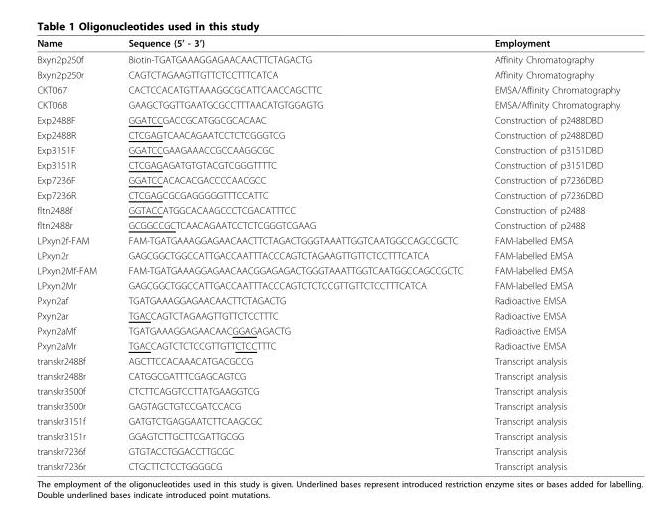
<table><thead><tr><td>Name</td><td>Sequence (5’ - 3’)</td><td>Employment</td></tr></thead><tbody><tr><td>Bxyn2p250f</td><td>Biotin-TGATGAAAGGAGAACAACTTCTAGACTG</td><td>Affinity Chromatography</td></tr><tr><td>Bxyn2p250r</td><td>CAGTCTAGAAGTTGTTCTCCTTTCATCA</td><td>Affinity Chromatography</td></tr><tr><td>CKT067</td><td>CACTCCACATGTTAAAGGCGCATTCAACCAGCTTC</td><td>EMSA/Affinity Chromatography</td></tr><tr><td>CKT068</td><td>GAAGCTGGTTGAATGCGCCTTTAACATGTGGAGTG</td><td>EMSA/Affinity Chromatography</td></tr><tr><td>Exp2488F</td><td>GGATCCGACCGCATGGCGCACAAC</td><td>Construction of p2488DBD</td></tr><tr><td>Exp2488R</td><td>CTCGAGTCAACAGAATCCTCTCGGGTCG</td><td>Construction of p2488DBD</td></tr><tr><td>Exp3151F</td><td>GGATCCGAAGAAACCGCCAAGGCGC</td><td>Construction of p3151DBD</td></tr><tr><td>Exp3151R</td><td>CTCGAGAGATGTGTACGTCGGGTTTTC</td><td>Construction of p3151DBD</td></tr><tr><td>Exp7236F</td><td>GGATCCACACACGACCCCAACGCC</td><td>Construction of p7236DBD</td></tr><tr><td>Exp7236R</td><td>CTCGAGCGCGAGGGGGTTTCCATTC</td><td>Construction of p7236DBD</td></tr><tr><td>fltn2488f</td><td>GGTACCATGGCACAAGCCCTCGACATTTCC</td><td>Construction of p2488</td></tr><tr><td>fltn2488r</td><td>GCGGCCGCTCAACAGAATCCTCTCGGGTCGAAG</td><td>Construction of p2488</td></tr><tr><td>LPxyn2f-FAM</td><td>FAM-TGATGAAAGGAGAACAACTTCTAGACTGGGTAAATTGGTCAATGGCCAGCCGCTC</td><td>FAM-labelled EMSA</td></tr><tr><td>LPxyn2r</td><td>GAGCGGCTGGCCATTGACCAATTTACCCAGTCTAGAAGTTGTTCTCCTTTCATCA</td><td>FAM-labelled EMSA</td></tr><tr><td>LPxyn2Mf-FAM</td><td>FAM-TGATGAAAGGAGAACAACGGAGAGACTGGGTAAATTGGTCAATGGCCAGCCGCTC</td><td>FAM-labelled EMSA</td></tr><tr><td>LPxyn2Mr</td><td>GAGCGGCTGGCCATTGACCAATTTACCCAGTCTCTCCGTTGTTCTCCTTTCATCA</td><td>FAM-labelled EMSA</td></tr><tr><td>Pxyn2af</td><td>TGATGAAAGGAGAACAACTTCTAGACTG</td><td>Radioactive EMSA</td></tr><tr><td>Pxyn2ar</td><td>TGACCAGTCTAGAAGTTGTTCTCCTTTC</td><td>Radioactive EMSA</td></tr><tr><td>Pxyn2aMf</td><td>TGATGAAAGGAGAACAACGGAGAGACTG</td><td>Radioactive EMSA</td></tr><tr><td>Pxyn2aMr</td><td>TGACCAGTCTCTCCGTTGTTCTCCTTTC</td><td>Radioactive EMSA</td></tr><tr><td>transkr2488f</td><td>AGCTTCCACAAACATGACGCCG</td><td>Transcript analysis</td></tr><tr><td>transkr2488r</td><td>CATGGCGATTTCGAGCAGTCG</td><td>Transcript analysis</td></tr><tr><td>transkr3500f</td><td>CTCTTCAGGTCCTTATGAAGGTCG</td><td>Transcript analysis</td></tr><tr><td>transkr3500r</td><td>GAGTAGCTGTCCGATCCACG</td><td>Transcript analysis</td></tr><tr><td>transkr3151f</td><td>GATGTCTGAGGAATCTTCAAGCGC</td><td>Transcript analysis</td></tr><tr><td>transkr3151r</td><td>GGAGTCTTGCTTCGATTGCGG</td><td>Transcript analysis</td></tr><tr><td>transkr7236f</td><td>GTGTACCTGGACCTTGCGC</td><td>Transcript analysis</td></tr><tr><td>transkr7236r</td><td>CTGCTTCTCCTGGGGCG</td><td>Transcript analysis</td></tr></tbody></table>